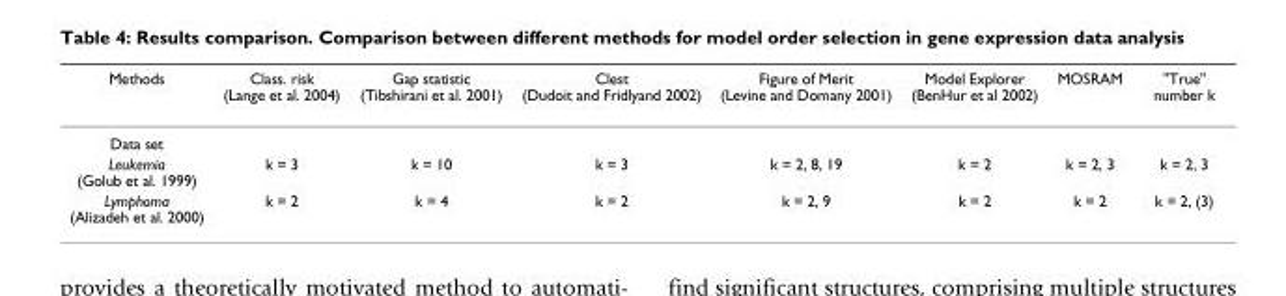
<table><thead><tr><td>Methods</td><td>Class. risk (Lange et al. 2004)</td><td>Gap statistic (Tibshirani et al. 2001)</td><td>Clest (Dudoit and Fridlyand 2002)</td><td>Figure of Merit (Levine and Domany 2001)</td><td>Model Explorer (BenHur et al 2002)</td><td>MOSRAM</td><td>&quot;True&quot; number k</td></tr></thead><tbody><tr><td colspan="8">Data set</td></tr><tr><td>Leukemia (Golub et al. 1999)</td><td>k = 3</td><td>k = 10</td><td>k = 3</td><td>k = 2, 8, 19</td><td>k = 2</td><td>k = 2, 3</td><td>k = 2, 3</td></tr><tr><td>Lymphoma (Alizadeh et al. 2000)</td><td>k = 2</td><td>k = 4</td><td>k = 2</td><td>k = 2, 9</td><td>k = 2</td><td>k = 2</td><td>k = 2, (3)</td></tr></tbody></table>